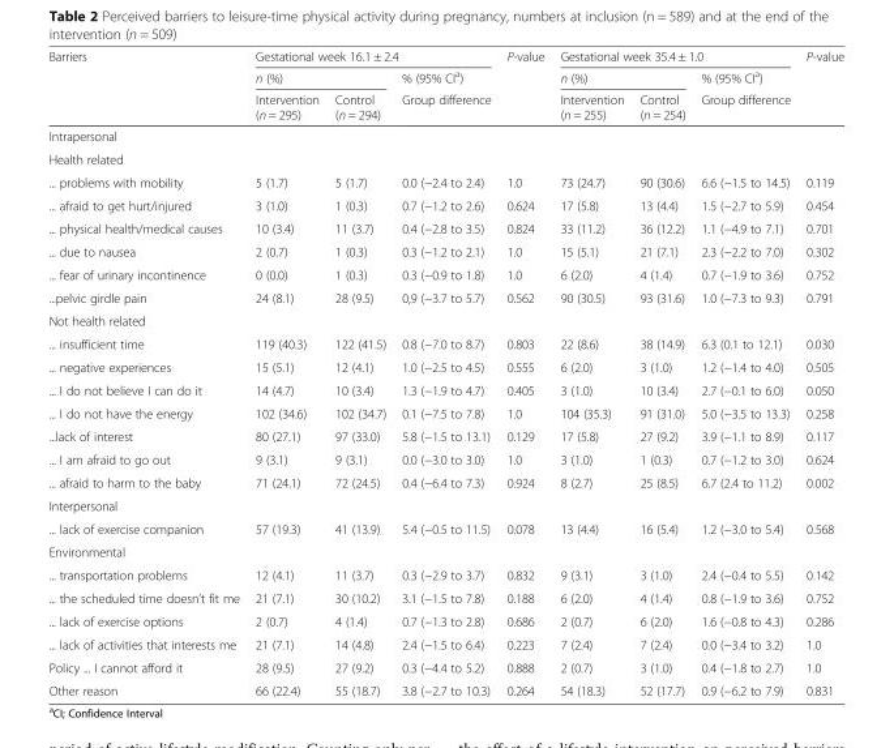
<table><thead><tr><td rowspan="3">Barriers</td><td colspan="3">Gestational week 16.1 ± 2.4</td><td rowspan="3">P-value</td><td colspan="3">Gestational week 35.4 ± 1.0</td><td rowspan="3">P-value</td></tr><tr><td colspan="2">n (%)</td><td rowspan="2">% (95% CI<sup>a</sup>) Group difference</td><td colspan="2">n (%)</td><td rowspan="2">% (95% CI<sup>a</sup>) Group difference</td></tr><tr><td>Intervention (n = 295)</td><td>Control (n = 294)</td><td>Intervention (n = 255)</td><td>Control (n = 254)</td></tr></thead><tbody><tr><td colspan="9">Intrapersonal</td></tr><tr><td colspan="9">Health related</td></tr><tr><td>... problems with mobility</td><td>5 (1.7)</td><td>5 (1.7)</td><td>0.0 (−2.4 to 2.4)</td><td>1.0</td><td>73 (24.7)</td><td>90 (30.6)</td><td>6.6 (−1.5 to 14.5)</td><td>0.119</td></tr><tr><td>... afraid to get hurt/injured</td><td>3 (1.0)</td><td>1 (0.3)</td><td>0.7 (−1.2 to 2.6)</td><td>0.624</td><td>17 (5.8)</td><td>13 (4.4)</td><td>1.5 (−2.7 to 5.9)</td><td>0.454</td></tr><tr><td>... physical health/medical causes</td><td>10 (3.4)</td><td>11 (3.7)</td><td>0.4 (−2.8 to 3.5)</td><td>0.824</td><td>33 (11.2)</td><td>36 (12.2)</td><td>1.1 (−4.9 to 7.1)</td><td>0.701</td></tr><tr><td>... due to nausea</td><td>2 (0.7)</td><td>1 (0.3)</td><td>0.3 (−1.2 to 2.1)</td><td>1.0</td><td>15 (5.1)</td><td>21 (7.1)</td><td>2.3 (−2.2 to 7.0)</td><td>0.302</td></tr><tr><td>... fear of urinary incontinence</td><td>0 (0.0)</td><td>1 (0.3)</td><td>0.3 (−0.9 to 1.8)</td><td>1.0</td><td>6 (2.0)</td><td>4 (1.4)</td><td>0.7 (−1.9 to 3.6)</td><td>0.752</td></tr><tr><td>...pelvic girdle pain</td><td>24 (8.1)</td><td>28 (9.5)</td><td>0,9 (−3.7 to 5.7)</td><td>0.562</td><td>90 (30.5)</td><td>93 (31.6)</td><td>1.0 (−7.3 to 9.3)</td><td>0.791</td></tr><tr><td colspan="9">Not health related</td></tr><tr><td>... insufficient time</td><td>119 (40.3)</td><td>122 (41.5)</td><td>0.8 (−7.0 to 8.7)</td><td>0.803</td><td>22 (8.6)</td><td>38 (14.9)</td><td>6.3 (0.1 to 12.1)</td><td>0.030</td></tr><tr><td>... negative experiences</td><td>15 (5.1)</td><td>12 (4.1)</td><td>1.0 (−2.5 to 4.5)</td><td>0.555</td><td>6 (2.0)</td><td>3 (1.0)</td><td>1.2 (−1.4 to 4.0)</td><td>0.505</td></tr><tr><td>... I do not believe I can do it</td><td>14 (4.7)</td><td>10 (3.4)</td><td>1.3 (−1.9 to 4.7)</td><td>0.405</td><td>3 (1.0)</td><td>10 (3.4)</td><td>2.7 (−0.1 to 6.0)</td><td>0.050</td></tr><tr><td>... I do not have the energy</td><td>102 (34.6)</td><td>102 (34.7)</td><td>0.1 (−7.5 to 7.8)</td><td>1.0</td><td>104 (35.3)</td><td>91 (31.0)</td><td>5.0 (−3.5 to 13.3)</td><td>0.258</td></tr><tr><td>...lack of interest</td><td>80 (27.1)</td><td>97 (33.0)</td><td>5.8 (−1.5 to 13.1)</td><td>0.129</td><td>17 (5.8)</td><td>27 (9.2)</td><td>3.9 (−1.1 to 8.9)</td><td>0.117</td></tr><tr><td>... I am afraid to go out</td><td>9 (3.1)</td><td>9 (3.1)</td><td>0.0 (−3.0 to 3.0)</td><td>1.0</td><td>3 (1.0)</td><td>1 (0.3)</td><td>0.7 (−1.2 to 3.0)</td><td>0.624</td></tr><tr><td>... afraid to harm to the baby</td><td>71 (24.1)</td><td>72 (24.5)</td><td>0.4 (−6.4 to 7.3)</td><td>0.924</td><td>8 (2.7)</td><td>25 (8.5)</td><td>6.7 (2.4 to 11.2)</td><td>0.002</td></tr><tr><td colspan="9">Interpersonal</td></tr><tr><td>... lack of exercise companion</td><td>57 (19.3)</td><td>41 (13.9)</td><td>5.4 (−0.5 to 11.5)</td><td>0.078</td><td>13 (4.4)</td><td>16 (5.4)</td><td>1.2 (−3.0 to 5.4)</td><td>0.568</td></tr><tr><td colspan="9">Environmental</td></tr><tr><td>... transportation problems</td><td>12 (4.1)</td><td>11 (3.7)</td><td>0.3 (−2.9 to 3.7)</td><td>0.832</td><td>9 (3.1)</td><td>3 (1.0)</td><td>2.4 (−0.4 to 5.5)</td><td>0.142</td></tr><tr><td>... the scheduled time doesn’t fit me</td><td>21 (7.1)</td><td>30 (10.2)</td><td>3.1 (−1.5 to 7.8)</td><td>0.188</td><td>6 (2.0)</td><td>4 (1.4)</td><td>0.8 (−1.9 to 3.6)</td><td>0.752</td></tr><tr><td>... lack of exercise options</td><td>2 (0.7)</td><td>4 (1.4)</td><td>0.7 (−1.3 to 2.8)</td><td>0.686</td><td>2 (0.7)</td><td>6 (2.0)</td><td>1.6 (−0.8 to 4.3)</td><td>0.286</td></tr><tr><td>... lack of activities that interests me</td><td>21 (7.1)</td><td>14 (4.8)</td><td>2.4 (−1.5 to 6.4)</td><td>0.223</td><td>7 (2.4)</td><td>7 (2.4)</td><td>0.0 (−3.4 to 3.2)</td><td>1.0</td></tr><tr><td>Policy ... I cannot afford it</td><td>28 (9.5)</td><td>27 (9.2)</td><td>0.3 (−4.4 to 5.2)</td><td>0.888</td><td>2 (0.7)</td><td>3 (1.0)</td><td>0.4 (−1.8 to 2.7)</td><td>1.0</td></tr><tr><td>Other reason</td><td>66 (22.4)</td><td>55 (18.7)</td><td>3.8 (−2.7 to 10.3)</td><td>0.264</td><td>54 (18.3)</td><td>52 (17.7)</td><td>0.9 (−6.2 to 7.9)</td><td>0.831</td></tr></tbody></table>